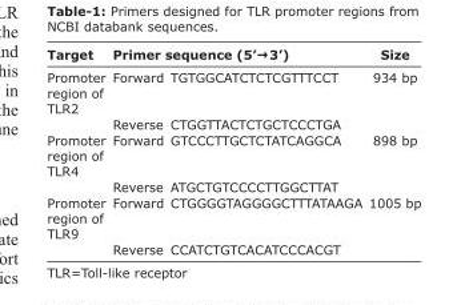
<table><thead><tr><td rowspan="2">Target Promoter region of TLR2</td><td colspan="2">Primer sequence (5’→3’)</td><td rowspan="2">Size 934 bp</td></tr><tr><td>Forward</td><td>TGTGGCATCTCTCGTTTCCT</td></tr></thead><tbody><tr><td></td><td>Reverse</td><td>CTGGTTACTCTGCTCCCTGA</td><td></td></tr><tr><td rowspan="2">Promoter region of TLR4</td><td>Forward</td><td>GTCCCTTGCTCTATCAGGCA</td><td>898 bp</td></tr><tr><td>Reverse</td><td>ATGCTGTCCCCTTGGCTTAT</td><td></td></tr><tr><td rowspan="2">Promoter region of TLR9</td><td>Forward</td><td>CTGGGGTAGGGGCTTTATAAGA</td><td>1005 bp</td></tr><tr><td>Reverse</td><td>CCATCTGTCACATCCCACGT</td><td></td></tr></tbody></table>